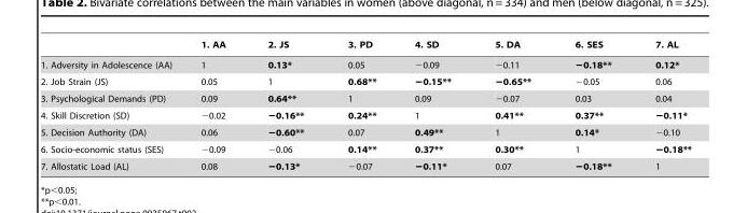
<table><thead><tr><td></td><td>1. AA</td><td>2. JS</td><td>3. PD</td><td>4. SD</td><td>5. DA</td><td>6. SES</td><td>7. AL</td></tr></thead><tbody><tr><td>1. Adversity in Adolescence (AA)</td><td>1</td><td>0.13*</td><td>0.05</td><td>−0.09</td><td>−0.11</td><td>−0.18**</td><td>0.12*</td></tr><tr><td>2. Job Strain (JS)</td><td>0.05</td><td>1</td><td>0.68**</td><td>−0.15**</td><td>−0.65**</td><td>−0.05</td><td>0.06</td></tr><tr><td>3. Psychological Demands (PD)</td><td>0.09</td><td>0.64**</td><td>1</td><td>0.09</td><td>−0.07</td><td>0.03</td><td>0.04</td></tr><tr><td>4. Skill Discretion (SD)</td><td>−0.02</td><td>−0.16**</td><td>0.24**</td><td>1</td><td>0.41**</td><td>0.37**</td><td>−0.11*</td></tr><tr><td>5. Decision Authority (DA)</td><td>0.06</td><td>−0.60**</td><td>0.07</td><td>0.49**</td><td>1</td><td>0.14*</td><td>−0.10</td></tr><tr><td>6. Socio-economic status (SES)</td><td>−0.09</td><td>−0.06</td><td>0.14**</td><td>0.37**</td><td>0.30**</td><td>1</td><td>−0.18**</td></tr><tr><td>7. Allostatic Load (AL)</td><td>0.08</td><td>−0.13*</td><td>−0.07</td><td>−0.11*</td><td>0.07</td><td>−0.18**</td><td>1</td></tr></tbody></table>